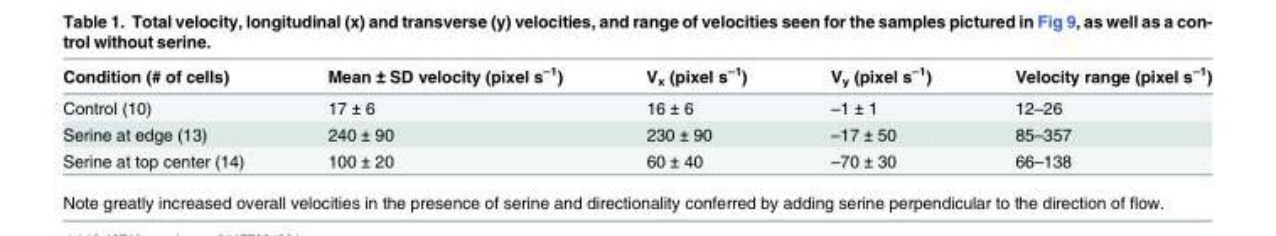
<table><thead><tr><td>Condition (# of cells)</td><td>Mean ± SD velocity (pixel s<sup>–1</sup>)</td><td>V<sub>x</sub> (pixel s<sup>–1</sup>)</td><td>V<sub>y</sub> (pixel s<sup>–1</sup>)</td><td>Velocity range (pixel s<sup>–1</sup>)</td></tr></thead><tbody><tr><td>Control (10)</td><td>17 ± 6</td><td>16 ± 6</td><td>–1 ± 1</td><td>12–26</td></tr><tr><td>Serine at edge (13)</td><td>240 ± 90</td><td>230 ± 90</td><td>–17 ± 50</td><td>85–357</td></tr><tr><td>Serine at top center (14)</td><td>100 ± 20</td><td>60 ± 40</td><td>–70 ± 30</td><td>66–138</td></tr></tbody></table>